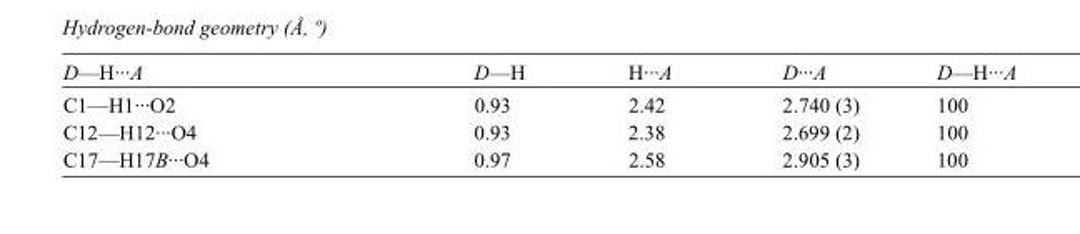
<table><tbody><tr><td>D—H···A</td><td>D—H</td><td>H···A</td><td>D···A</td><td>D—H···A</td></tr><tr><td>C1—H1···O2</td><td>0.93</td><td>2.42</td><td>2.740 (3)</td><td>100</td></tr><tr><td>C12—H12···O4</td><td>0.93</td><td>2.38</td><td>2.699 (2)</td><td>100</td></tr><tr><td>C17—H17B···O4</td><td>0.97</td><td>2.58</td><td>2.905 (3)</td><td>100</td></tr></tbody></table>